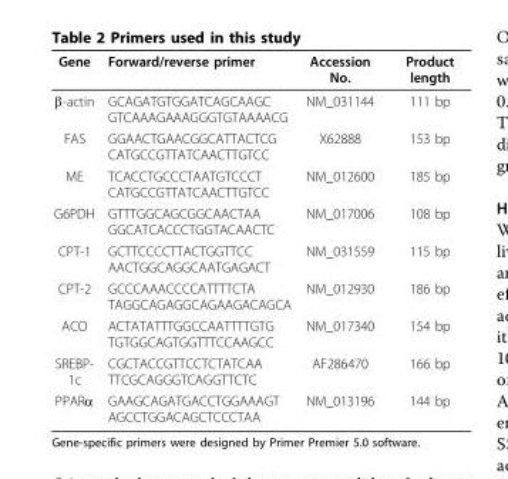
<table><thead><tr><td>Gene</td><td>Forward/reverse primer</td><td>Accession No.</td><td>Product length</td></tr></thead><tbody><tr><td>β-actin</td><td>GCAGATGTGGATCAGCAAGC GTCAAAGAAAGGGTGTAAAACG</td><td>NM_031144</td><td>111 bp</td></tr><tr><td>FAS</td><td>GGAACTGAACGGCATTACTCG CATGCCGTTATCAACTTGTCC</td><td>X62888</td><td>153 bp</td></tr><tr><td>ME</td><td>TCACCTGCCCTAATGTCCCT CATGCCGTTATCAACTTGTCC</td><td>NM_012600</td><td>185 bp</td></tr><tr><td>G6PDH</td><td>GTTTGGCAGCGGCAACTAA GGCATCACCCTGGTACAACTC</td><td>NM_017006</td><td>108 bp</td></tr><tr><td>CPT-1</td><td>GCTTCCCCTTACTGGTTCC AACTGGCAGGCAATGAGACT</td><td>NM_031559</td><td>115 bp</td></tr><tr><td>CPT-2</td><td>GCCCAAACCCCATTTTCTA TAGGCAGAGGCAGAAGACAGCA</td><td>NM_012930</td><td>186 bp</td></tr><tr><td>ACO</td><td>ACTATATTTGGCCAATTTTGTG TGTGGCAGTGGTTTCCAAGCC</td><td>NM_017340</td><td>154 bp</td></tr><tr><td>SREBP- 1c</td><td>CGCTACCGTTCCTCTATCAA TTCGCAGGGTCAGGTTCTC</td><td>AF286470</td><td>166 bp</td></tr><tr><td>PPARα</td><td>GAAGCAGATGACCTGGAAAGT AGCCTGGACAGCTCCCTAA</td><td>NM_013196</td><td>144 bp</td></tr></tbody></table>